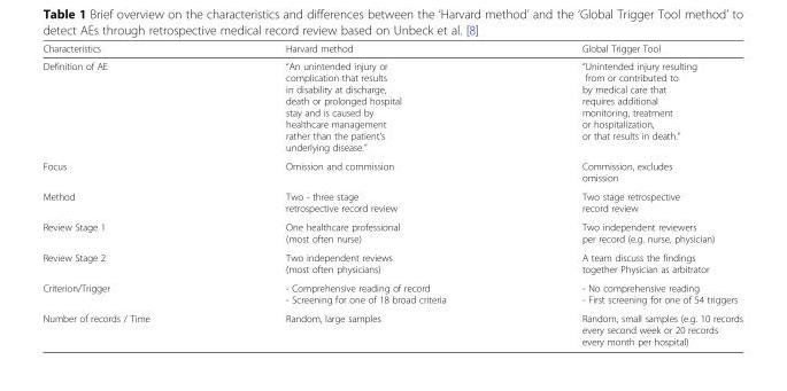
<table><thead><tr><td>Characteristics</td><td>Harvard method</td><td>Global Trigger Tool</td></tr></thead><tbody><tr><td>Definition of AE</td><td>“An unintended injury or complication that results in disability at discharge, death or prolonged hospital stay and is caused by healthcare management rather than the patient’s underlying disease.”</td><td>“Unintended injury resulting from or contributed to by medical care that requires additional monitoring, treatment or hospitalization, or that results in death.”</td></tr><tr><td>Focus</td><td>Omission and commission</td><td>Commission, excludes omission</td></tr><tr><td>Method</td><td>Two - three stage retrospective record review</td><td>Two stage retrospective record review</td></tr><tr><td>Review Stage 1</td><td>One healthcare professional (most often nurse)</td><td>Two independent reviewers per record (e.g. nurse, physician)</td></tr><tr><td>Review Stage 2</td><td>Two independent reviews (most often physicians)</td><td>A team discuss the findings together Physician as arbitrator</td></tr><tr><td>Criterion/Trigger</td><td>- Comprehensive reading of record - Screening for one of 18 broad criteria</td><td>- No comprehensive reading - First screening for one of 54 triggers</td></tr><tr><td>Number of records / Time</td><td>Random, large samples</td><td>Random, small samples (e.g. 10 records every second week or 20 records every month per hospital)</td></tr></tbody></table>